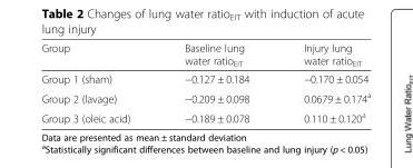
<table><thead><tr><td>Group</td><td>Baseline lung water ratio<sub>EIT</sub></td><td>Injury lung water ratio<sub>EIT</sub></td></tr></thead><tbody><tr><td>Group 1 (sham)</td><td>−0.127 ± 0.184</td><td>−0.170 ± 0.054</td></tr><tr><td>Group 2 (lavage)</td><td>−0.209 ± 0.098</td><td>0.0679 ± 0.174<sup>a</sup></td></tr><tr><td>Group 3 (oleic acid)</td><td>−0.189 ± 0.078</td><td>0.110 ± 0.120<sup>a</sup></td></tr></tbody></table>